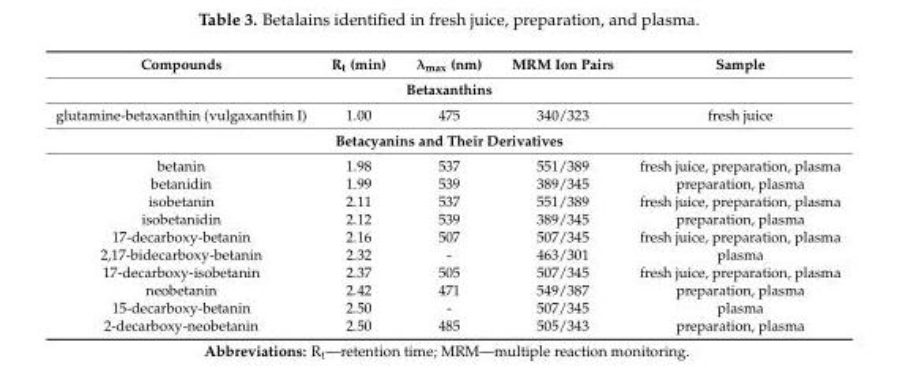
<table><thead><tr><td>Compounds</td><td>R<sub>t</sub> (min)</td><td>λ<sub>max</sub> (nm)</td><td>MRM Ion Pairs</td><td>Sample</td></tr></thead><tbody><tr><td colspan="5">Betaxanthins</td></tr><tr><td>glutamine-betaxanthin (vulgaxanthin I)</td><td>1.00</td><td>475</td><td>340/323</td><td>fresh juice</td></tr><tr><td colspan="5">Betacyanins and Their Derivatives</td></tr><tr><td>betanin</td><td>1.98</td><td>537</td><td>551/389</td><td>fresh juice, preparation, plasma</td></tr><tr><td>betanidin</td><td>1.99</td><td>539</td><td>389/345</td><td>preparation, plasma</td></tr><tr><td>isobetanin</td><td>2.11</td><td>537</td><td>551/389</td><td>fresh juice, preparation, plasma</td></tr><tr><td>isobetanidin</td><td>2.12</td><td>539</td><td>389/345</td><td>preparation, plasma</td></tr><tr><td>17-decarboxy-betanin</td><td>2.16</td><td>507</td><td>507/345</td><td>fresh juice, preparation, plasma</td></tr><tr><td>2,17-bidecarboxy-betanin</td><td>2.32</td><td>-</td><td>463/301</td><td>plasma</td></tr><tr><td>17-decarboxy-isobetanin</td><td>2.37</td><td>505</td><td>507/345</td><td>fresh juice, preparation, plasma</td></tr><tr><td>neobetanin</td><td>2.42</td><td>471</td><td>549/387</td><td>preparation, plasma</td></tr><tr><td>15-decarboxy-betanin</td><td>2.50</td><td>-</td><td>507/345</td><td>plasma</td></tr><tr><td>2-decarboxy-neobetanin</td><td>2.50</td><td>485</td><td>505/343</td><td>preparation, plasma</td></tr></tbody></table>